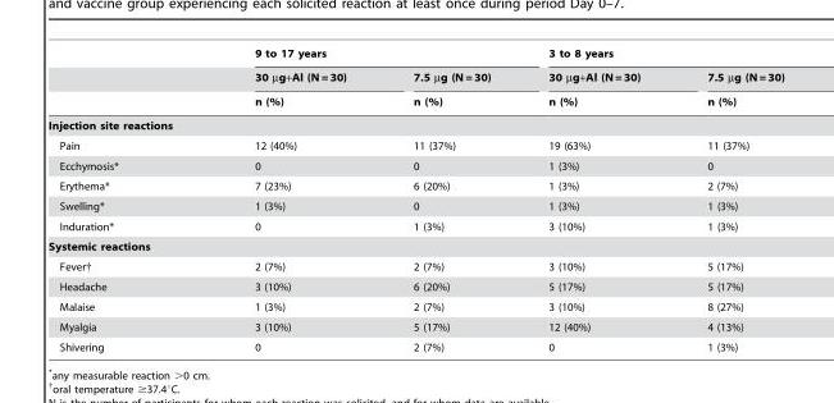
<table><thead><tr><td rowspan="3"></td><td colspan="2">9 to 17 years</td><td colspan="2">3 to 8 years</td></tr><tr><td rowspan="2">30 µg+Al (N = 30) n (%)</td><td rowspan="2">7.5 µg (N = 30) n (%)</td><td rowspan="2">30 µg+Al (N = 30) n (%)</td><td rowspan="2">7.5 µg (N = 30) n (%)</td></tr><tr></tr></thead><tbody><tr><td colspan="5">Injection site reactions</td></tr><tr><td>Pain</td><td>12 (40%)</td><td>11 (37%)</td><td>19 (63%)</td><td>11 (37%)</td></tr><tr><td>Ecchymosis*</td><td>0</td><td>0</td><td>1 (3%)</td><td>0</td></tr><tr><td>Erythema*</td><td>7 (23%)</td><td>6 (20%)</td><td>1 (3%)</td><td>2 (7%)</td></tr><tr><td>Swelling*</td><td>1 (3%)</td><td>0</td><td>1 (3%)</td><td>1 (3%)</td></tr><tr><td>Induration*</td><td>0</td><td>1 (3%)</td><td>3 (10%)</td><td>1 (3%)</td></tr><tr><td colspan="5">Systemic reactions</td></tr><tr><td>Fever†</td><td>2 (7%)</td><td>2 (7%)</td><td>3 (10%)</td><td>5 (17%)</td></tr><tr><td>Headache</td><td>3 (10%)</td><td>6 (20%)</td><td>5 (17%)</td><td>5 (17%)</td></tr><tr><td>Malaise</td><td>1 (3%)</td><td>2 (7%)</td><td>3 (10%)</td><td>8 (27%)</td></tr><tr><td>Myalgia</td><td>3 (10%)</td><td>5 (17%)</td><td>12 (40%)</td><td>4 (13%)</td></tr><tr><td>Shivering</td><td>0</td><td>2 (7%)</td><td>0</td><td>1 (3%)</td></tr></tbody></table>